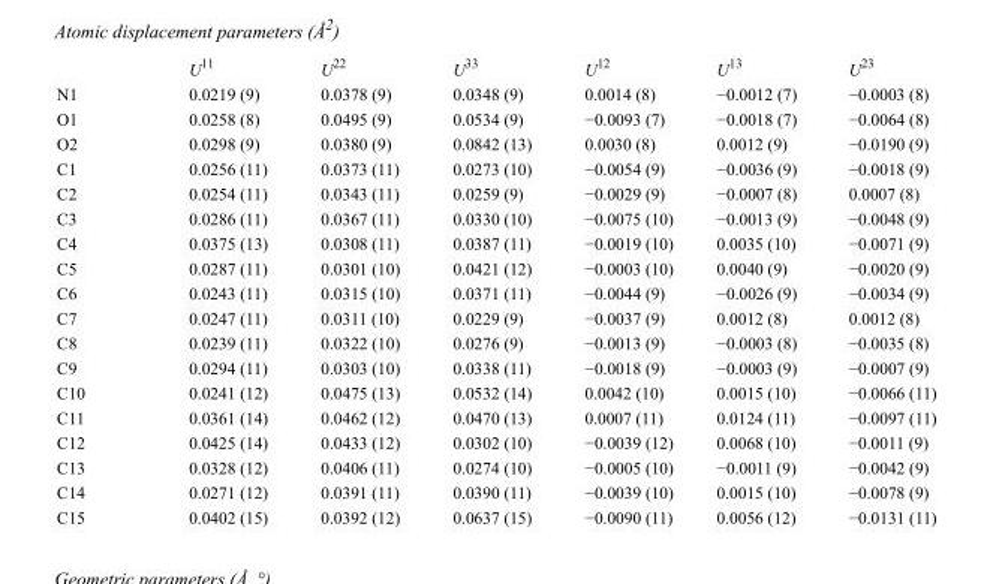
<table><thead><tr><td></td><td>U<sup>11</sup></td><td>U<sup>22</sup></td><td>U<sup>33</sup></td><td>U<sup>12</sup></td><td>U<sup>13</sup></td><td>U<sup>23</sup></td></tr></thead><tbody><tr><td>N1</td><td>0.0219 (9)</td><td>0.0378 (9)</td><td>0.0348 (9)</td><td>0.0014 (8)</td><td>−0.0012 (7)</td><td>−0.0003 (8)</td></tr><tr><td>O1</td><td>0.0258 (8)</td><td>0.0495 (9)</td><td>0.0534 (9)</td><td>−0.0093 (7)</td><td>−0.0018 (7)</td><td>−0.0064 (8)</td></tr><tr><td>O2</td><td>0.0298 (9)</td><td>0.0380 (9)</td><td>0.0842 (13)</td><td>0.0030 (8)</td><td>0.0012 (9)</td><td>−0.0190 (9)</td></tr><tr><td>C1</td><td>0.0256 (11)</td><td>0.0373 (11)</td><td>0.0273 (10)</td><td>−0.0054 (9)</td><td>−0.0036 (9)</td><td>−0.0018 (9)</td></tr><tr><td>C2</td><td>0.0254 (11)</td><td>0.0343 (11)</td><td>0.0259 (9)</td><td>−0.0029 (9)</td><td>−0.0007 (8)</td><td>0.0007 (8)</td></tr><tr><td>C3</td><td>0.0286 (11)</td><td>0.0367 (11)</td><td>0.0330 (10)</td><td>−0.0075 (10)</td><td>−0.0013 (9)</td><td>−0.0048 (9)</td></tr><tr><td>C4</td><td>0.0375 (13)</td><td>0.0308 (11)</td><td>0.0387 (11)</td><td>−0.0019 (10)</td><td>0.0035 (10)</td><td>−0.0071 (9)</td></tr><tr><td>C5</td><td>0.0287 (11)</td><td>0.0301 (10)</td><td>0.0421 (12)</td><td>−0.0003 (10)</td><td>0.0040 (9)</td><td>−0.0020 (9)</td></tr><tr><td>C6</td><td>0.0243 (11)</td><td>0.0315 (10)</td><td>0.0371 (11)</td><td>−0.0044 (9)</td><td>−0.0026 (9)</td><td>−0.0034 (9)</td></tr><tr><td>C7</td><td>0.0247 (11)</td><td>0.0311 (10)</td><td>0.0229 (9)</td><td>−0.0037 (9)</td><td>0.0012 (8)</td><td>0.0012 (8)</td></tr><tr><td>C8</td><td>0.0239 (11)</td><td>0.0322 (10)</td><td>0.0276 (9)</td><td>−0.0013 (9)</td><td>−0.0003 (8)</td><td>−0.0035 (8)</td></tr><tr><td>C9</td><td>0.0294 (11)</td><td>0.0303 (10)</td><td>0.0338 (11)</td><td>−0.0018 (9)</td><td>−0.0003 (9)</td><td>−0.0007 (9)</td></tr><tr><td>C10</td><td>0.0241 (12)</td><td>0.0475 (13)</td><td>0.0532 (14)</td><td>0.0042 (10)</td><td>0.0015 (10)</td><td>−0.0066 (11)</td></tr><tr><td>C11</td><td>0.0361 (14)</td><td>0.0462 (12)</td><td>0.0470 (13)</td><td>0.0007 (11)</td><td>0.0124 (11)</td><td>−0.0097 (11)</td></tr><tr><td>C12</td><td>0.0425 (14)</td><td>0.0433 (12)</td><td>0.0302 (10)</td><td>−0.0039 (12)</td><td>0.0068 (10)</td><td>−0.0011 (9)</td></tr><tr><td>C13</td><td>0.0328 (12)</td><td>0.0406 (11)</td><td>0.0274 (10)</td><td>−0.0005 (10)</td><td>−0.0011 (9)</td><td>−0.0042 (9)</td></tr><tr><td>C14</td><td>0.0271 (12)</td><td>0.0391 (11)</td><td>0.0390 (11)</td><td>−0.0039 (10)</td><td>0.0015 (10)</td><td>−0.0078 (9)</td></tr><tr><td>C15</td><td>0.0402 (15)</td><td>0.0392 (12)</td><td>0.0637 (15)</td><td>−0.0090 (11)</td><td>0.0056 (12)</td><td>−0.0131 (11)</td></tr></tbody></table>